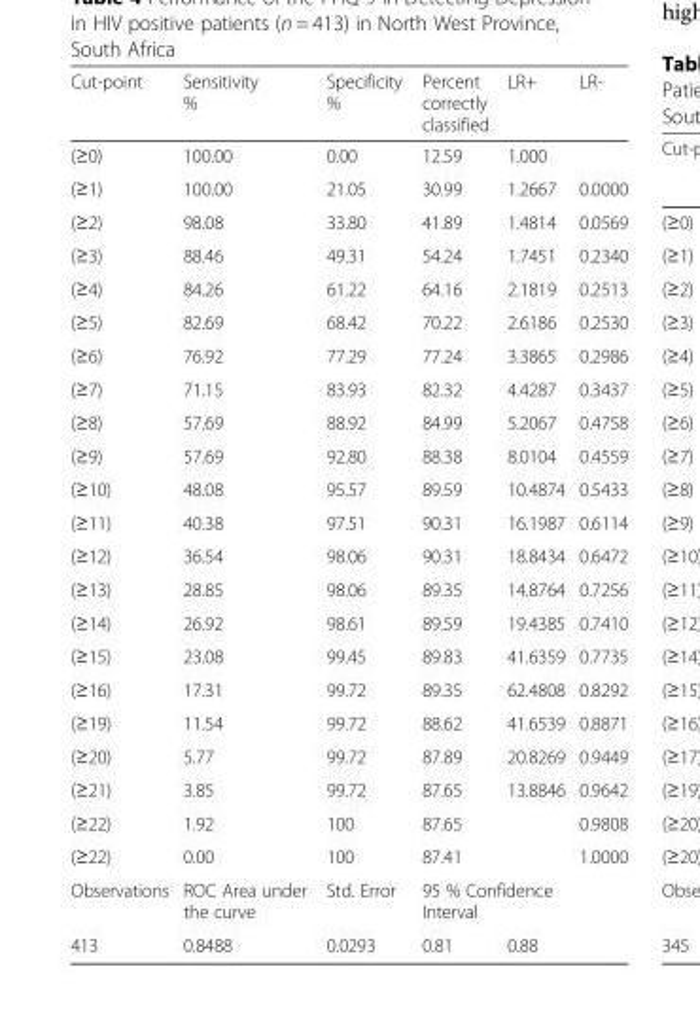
<table><thead><tr><td>Cut-point</td><td>Sensitivity %</td><td>Specificity %</td><td>Percent correctly classified</td><td>LR+</td><td>LR-</td></tr></thead><tbody><tr><td>(≥0)</td><td>100.00</td><td>0.00</td><td>12.59</td><td>1.000</td><td></td></tr><tr><td>(≥1)</td><td>100.00</td><td>21.05</td><td>30.99</td><td>1.2667</td><td>0.0000</td></tr><tr><td>(≥2)</td><td>98.08</td><td>33.80</td><td>41.89</td><td>1.4814</td><td>0.0569</td></tr><tr><td>(≥3)</td><td>88.46</td><td>49.31</td><td>54.24</td><td>1.7451</td><td>0.2340</td></tr><tr><td>(≥4)</td><td>84.26</td><td>61.22</td><td>64.16</td><td>2.1819</td><td>0.2513</td></tr><tr><td>(≥5)</td><td>82.69</td><td>68.42</td><td>70.22</td><td>2.6186</td><td>0.2530</td></tr><tr><td>(≥6)</td><td>76.92</td><td>77.29</td><td>77.24</td><td>3.3865</td><td>0.2986</td></tr><tr><td>(≥7)</td><td>71.15</td><td>83.93</td><td>82.32</td><td>4.4287</td><td>0.3437</td></tr><tr><td>(≥8)</td><td>57.69</td><td>88.92</td><td>84.99</td><td>5.2067</td><td>0.4758</td></tr><tr><td>(≥9)</td><td>57.69</td><td>92.80</td><td>88.38</td><td>8.0104</td><td>0.4559</td></tr><tr><td>(≥10)</td><td>48.08</td><td>95.57</td><td>89.59</td><td>10.4874</td><td>0.5433</td></tr><tr><td>(≥11)</td><td>40.38</td><td>97.51</td><td>90.31</td><td>16.1987</td><td>0.6114</td></tr><tr><td>(≥12)</td><td>36.54</td><td>98.06</td><td>90.31</td><td>18.8434</td><td>0.6472</td></tr><tr><td>(≥13)</td><td>28.85</td><td>98.06</td><td>89.35</td><td>14.8764</td><td>0.7256</td></tr><tr><td>(≥14)</td><td>26.92</td><td>98.61</td><td>89.59</td><td>19.4385</td><td>0.7410</td></tr><tr><td>(≥15)</td><td>23.08</td><td>99.45</td><td>89.83</td><td>41.6359</td><td>0.7735</td></tr><tr><td>(≥16)</td><td>17.31</td><td>99.72</td><td>89.35</td><td>62.4808</td><td>0.8292</td></tr><tr><td>(≥19)</td><td>11.54</td><td>99.72</td><td>88.62</td><td>41.6539</td><td>0.8871</td></tr><tr><td>(≥20)</td><td>5.77</td><td>99.72</td><td>87.89</td><td>20.8269</td><td>0.9449</td></tr><tr><td>(≥21)</td><td>3.85</td><td>99.72</td><td>87.65</td><td>13.8846</td><td>0.9642</td></tr><tr><td>(≥22)</td><td>1.92</td><td>100</td><td>87.65</td><td></td><td>0.9808</td></tr><tr><td>(≥22)</td><td>0.00</td><td>100</td><td>87.41</td><td></td><td>1.0000</td></tr><tr><td>Observations</td><td>ROC Area under the curve</td><td>Std. Error</td><td colspan="3">95 % Confidence Interval</td></tr><tr><td>413</td><td>0.8488</td><td>0.0293</td><td>0.81</td><td colspan="2">0.88</td></tr></tbody></table>